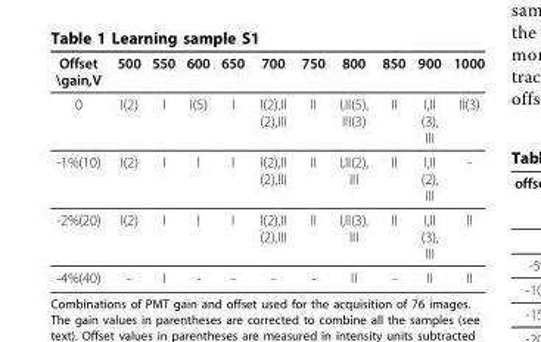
<table><thead><tr><td>Offset \gain,V</td><td>500</td><td>550</td><td>600</td><td>650</td><td>700</td><td>750</td><td>800</td><td>850</td><td>900</td><td>1000</td></tr></thead><tbody><tr><td>0</td><td>I(2)</td><td>I</td><td>I(5)</td><td>I</td><td>I(2),II (2),III</td><td>II</td><td>I,II(5), III(3)</td><td>II</td><td>I,II (3), III</td><td>II(3)</td></tr><tr><td>-1%(10)</td><td>I(2)</td><td>I</td><td>I</td><td>I</td><td>I(2),II (2),III</td><td>II</td><td>I,II(2), III</td><td>II</td><td>I,II (2), III</td><td>-</td></tr><tr><td>-2%(20)</td><td>I(2)</td><td>I</td><td>I</td><td>I</td><td>I(2),II (2),III</td><td>II</td><td>I,II(3), III</td><td>II</td><td>I,II (3), III</td><td>II</td></tr><tr><td>-4%(40)</td><td>-</td><td>I</td><td>-</td><td>-</td><td>-</td><td>-</td><td>II</td><td>-</td><td>II</td><td>II</td></tr></tbody></table>